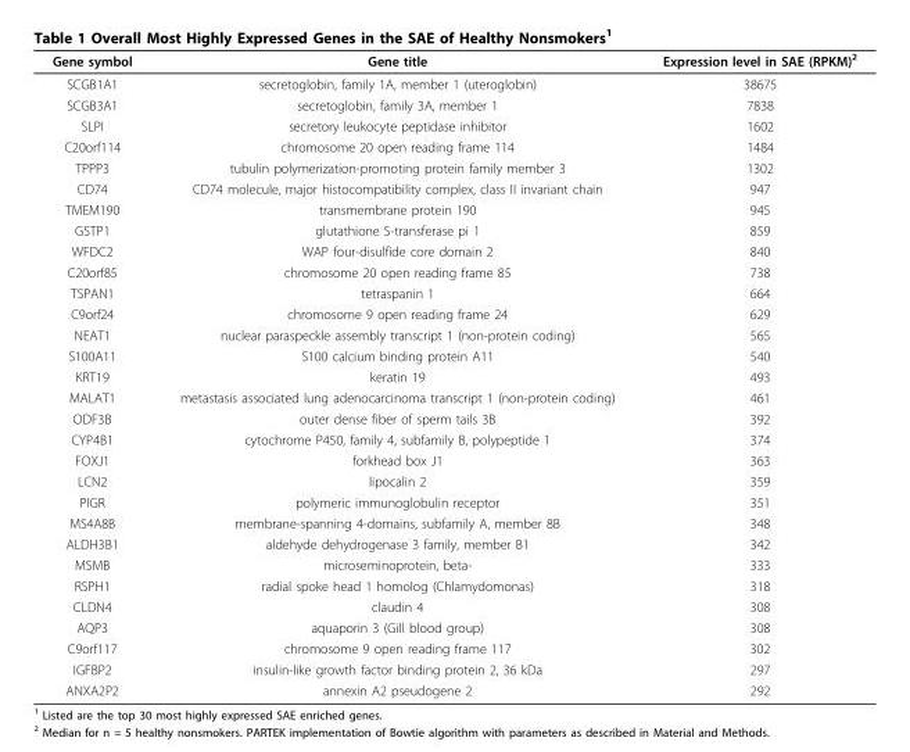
<table><thead><tr><td>Gene symbol</td><td>Gene title</td><td>Expression level in SAE (RPKM)<sup>2</sup></td></tr></thead><tbody><tr><td>SCGB1A1</td><td>secretoglobin, family 1A, member 1 (uteroglobin)</td><td>38675</td></tr><tr><td>SCGB3A1</td><td>secretoglobin, family 3A, member 1</td><td>7838</td></tr><tr><td>SLPI</td><td>secretory leukocyte peptidase inhibitor</td><td>1602</td></tr><tr><td>C20orf114</td><td>chromosome 20 open reading frame 114</td><td>1484</td></tr><tr><td>TPPP3</td><td>tubulin polymerization-promoting protein family member 3</td><td>1302</td></tr><tr><td>CD74</td><td>CD74 molecule, major histocompatibility complex, class II invariant chain</td><td>947</td></tr><tr><td>TMEM190</td><td>transmembrane protein 190</td><td>945</td></tr><tr><td>GSTP1</td><td>glutathione S-transferase pi 1</td><td>859</td></tr><tr><td>WFDC2</td><td>WAP four-disulfide core domain 2</td><td>840</td></tr><tr><td>C20orf85</td><td>chromosome 20 open reading frame 85</td><td>738</td></tr><tr><td>TSPAN1</td><td>tetraspanin 1</td><td>664</td></tr><tr><td>C9orf24</td><td>chromosome 9 open reading frame 24</td><td>629</td></tr><tr><td>NEAT1</td><td>nuclear paraspeckle assembly transcript 1 (non-protein coding)</td><td>565</td></tr><tr><td>S100A11</td><td>S100 calcium binding protein A11</td><td>540</td></tr><tr><td>KRT19</td><td>keratin 19</td><td>493</td></tr><tr><td>MALAT1</td><td>metastasis associated lung adenocarcinoma transcript 1 (non-protein coding)</td><td>461</td></tr><tr><td>ODF3B</td><td>outer dense fiber of sperm tails 3B</td><td>392</td></tr><tr><td>CYP4B1</td><td>cytochrome P450, family 4, subfamily B, polypeptide 1</td><td>374</td></tr><tr><td>FOXJ1</td><td>forkhead box J1</td><td>363</td></tr><tr><td>LCN2</td><td>lipocalin 2</td><td>359</td></tr><tr><td>PIGR</td><td>polymeric immunoglobulin receptor</td><td>351</td></tr><tr><td>MS4A8B</td><td>membrane-spanning 4-domains, subfamily A, member 8B</td><td>348</td></tr><tr><td>ALDH3B1</td><td>aldehyde dehydrogenase 3 family, member B1</td><td>342</td></tr><tr><td>MSMB</td><td>microseminoprotein, beta-</td><td>333</td></tr><tr><td>RSPH1</td><td>radial spoke head 1 homolog (Chlamydomonas)</td><td>318</td></tr><tr><td>CLDN4</td><td>claudin 4</td><td>308</td></tr><tr><td>AQP3</td><td>aquaporin 3 (Gill blood group)</td><td>308</td></tr><tr><td>C9orf117</td><td>chromosome 9 open reading frame 117</td><td>302</td></tr><tr><td>IGFBP2</td><td>insulin-like growth factor binding protein 2, 36 kDa</td><td>297</td></tr><tr><td>ANXA2P2</td><td>annexin A2 pseudogene 2</td><td>292</td></tr></tbody></table>